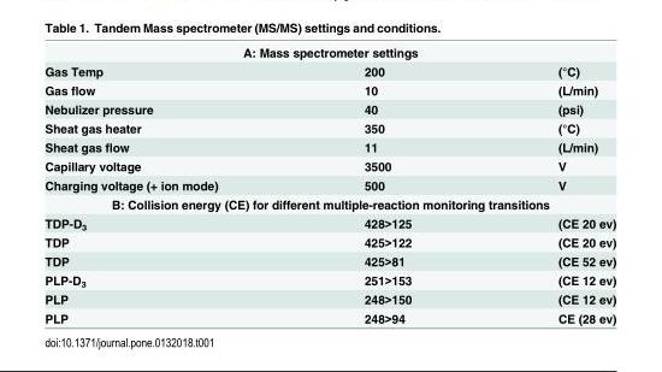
<table><tbody><tr><td colspan="3">A: Mass spectrometer settings</td></tr><tr><td>Gas Temp</td><td>200</td><td>(°C)</td></tr><tr><td>Gas flow</td><td>10</td><td>(L/min)</td></tr><tr><td>Nebulizer pressure</td><td>40</td><td>(psi)</td></tr><tr><td>Sheat gas heater</td><td>350</td><td>(°C)</td></tr><tr><td>Sheat gas flow</td><td>11</td><td>(L/min)</td></tr><tr><td>Capillary voltage</td><td>3500</td><td>V</td></tr><tr><td>Charging voltage (+ ion mode)</td><td>500</td><td>V</td></tr><tr><td colspan="3">B: Collision energy (CE) for different multiple-reaction monitoring transitions</td></tr><tr><td>TDP-D<sub>3</sub></td><td>428&gt;125</td><td>(CE 20 ev)</td></tr><tr><td>TDP</td><td>425&gt;122</td><td>(CE 20 ev)</td></tr><tr><td>TDP</td><td>425&gt;81</td><td>(CE 52 ev)</td></tr><tr><td>PLP-D<sub>3</sub></td><td>251&gt;153</td><td>(CE 12 ev)</td></tr><tr><td>PLP</td><td>248&gt;150</td><td>(CE 12 ev)</td></tr><tr><td>PLP</td><td>248&gt;94</td><td>CE (28 ev)</td></tr></tbody></table>